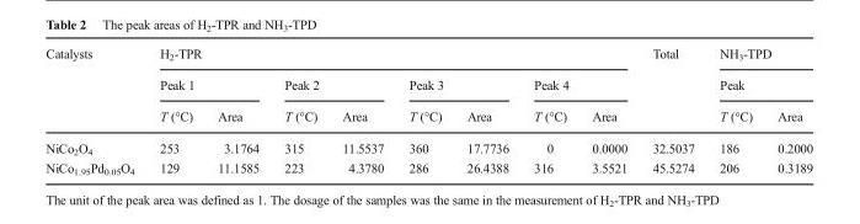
<table><thead><tr><td rowspan="3">Catalysts</td><td colspan="8">H<sub>2</sub>-TPR</td><td rowspan="3">Total</td><td rowspan="2" colspan="2">NH<sub>3</sub>-TPD Peak</td></tr><tr><td colspan="2">Peak 1</td><td colspan="2">Peak 2</td><td colspan="2">Peak 3</td><td colspan="2">Peak 4</td></tr><tr><td>T (°C)</td><td>Area</td><td>T (°C)</td><td>Area</td><td>T (°C)</td><td>Area</td><td>T (°C)</td><td>Area</td><td>T (°C)</td><td>Area</td></tr></thead><tbody><tr><td>NiCo<sub>2</sub>O<sub>4</sub></td><td>253</td><td>3.1764</td><td>315</td><td>11.5537</td><td>360</td><td>17.7736</td><td>0</td><td>0.0000</td><td>32.5037</td><td>186</td><td>0.2000</td></tr><tr><td>NiCo<sub>1.95</sub>Pd<sub>0.05</sub>O<sub>4</sub></td><td>129</td><td>11.1585</td><td>223</td><td>4.3780</td><td>286</td><td>26.4388</td><td>316</td><td>3.5521</td><td>45.5274</td><td>206</td><td>0.3189</td></tr></tbody></table>